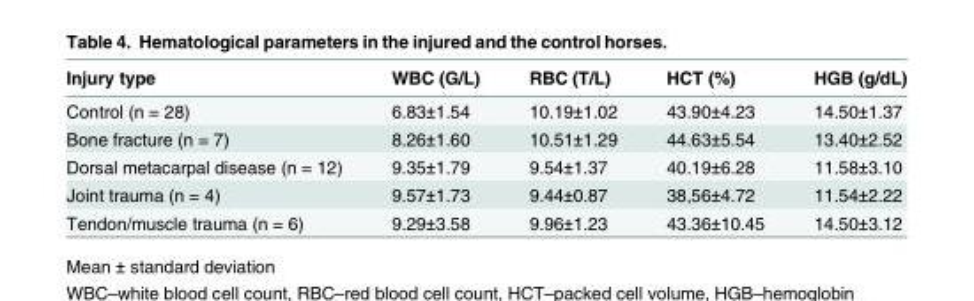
<table><thead><tr><td>Injury type</td><td>WBC (G/L)</td><td>RBC (T/L)</td><td>HCT (%)</td><td>HGB (g/dL)</td></tr></thead><tbody><tr><td>Control (n = 28)</td><td>6.83±1.54</td><td>10.19±1.02</td><td>43.90±4.23</td><td>14.50±1.37</td></tr><tr><td>Bone fracture (n = 7)</td><td>8.26±1.60</td><td>10.51±1.29</td><td>44.63±5.54</td><td>13.40±2.52</td></tr><tr><td>Dorsal metacarpal disease (n = 12)</td><td>9.35±1.79</td><td>9.54±1.37</td><td>40.19±6.28</td><td>11.58±3.10</td></tr><tr><td>Joint trauma (n = 4)</td><td>9.57±1.73</td><td>9.44±0.87</td><td>38,56±4.72</td><td>11.54±2.22</td></tr><tr><td>Tendon/muscle trauma (n = 6)</td><td>9.29±3.58</td><td>9.96±1.23</td><td>43.36±10.45</td><td>14.50±3.12</td></tr></tbody></table>